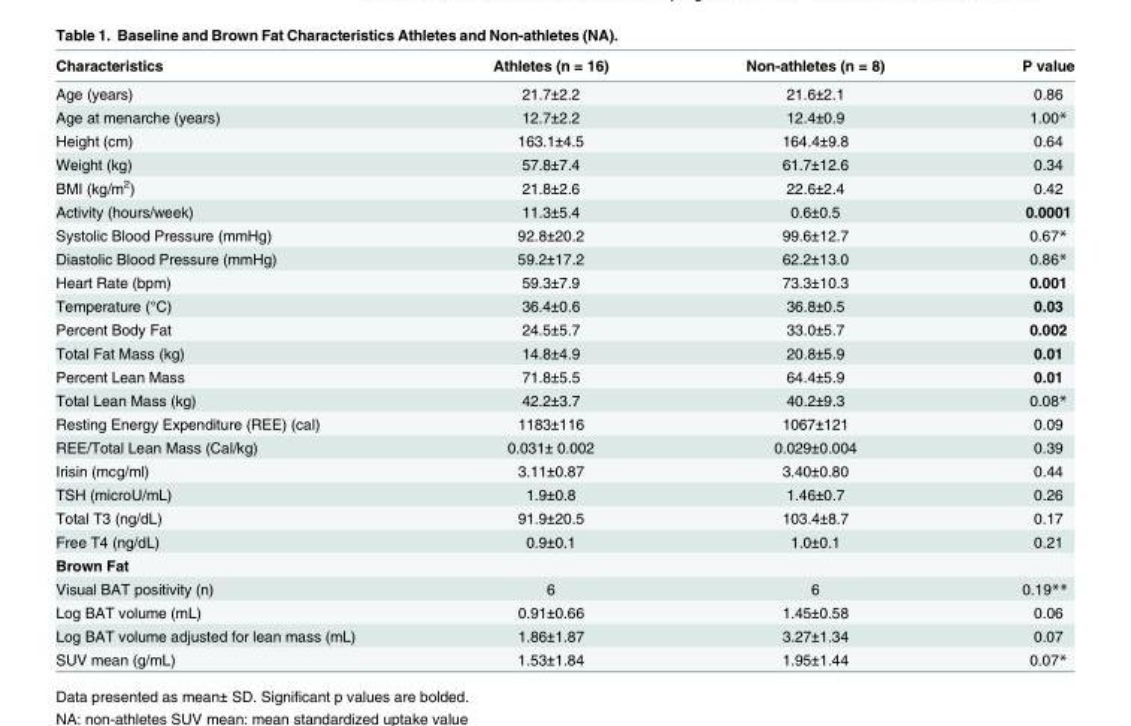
<table><thead><tr><td>Characteristics</td><td>Athletes (n = 16)</td><td>Non-athletes (n = 8)</td><td>P value</td></tr></thead><tbody><tr><td>Age (years)</td><td>21.7±2.2</td><td>21.6±2.1</td><td>0.86</td></tr><tr><td>Age at menarche (years)</td><td>12.7±2.2</td><td>12.4±0.9</td><td>1.00*</td></tr><tr><td>Height (cm)</td><td>163.1±4.5</td><td>164.4±9.8</td><td>0.64</td></tr><tr><td>Weight (kg)</td><td>57.8±7.4</td><td>61.7±12.6</td><td>0.34</td></tr><tr><td>BMI (kg/m<sup>2</sup>)</td><td>21.8±2.6</td><td>22.6±2.4</td><td>0.42</td></tr><tr><td>Activity (hours/week)</td><td>11.3±5.4</td><td>0.6±0.5</td><td>0.0001</td></tr><tr><td>Systolic Blood Pressure (mmHg)</td><td>92.8±20.2</td><td>99.6±12.7</td><td>0.67*</td></tr><tr><td>Diastolic Blood Pressure (mmHg)</td><td>59.2±17.2</td><td>62.2±13.0</td><td>0.86*</td></tr><tr><td>Heart Rate (bpm)</td><td>59.3±7.9</td><td>73.3±10.3</td><td>0.001</td></tr><tr><td>Temperature (°C)</td><td>36.4±0.6</td><td>36.8±0.5</td><td>0.03</td></tr><tr><td>Percent Body Fat</td><td>24.5±5.7</td><td>33.0±5.7</td><td>0.002</td></tr><tr><td>Total Fat Mass (kg)</td><td>14.8±4.9</td><td>20.8±5.9</td><td>0.01</td></tr><tr><td>Percent Lean Mass</td><td>71.8±5.5</td><td>64.4±5.9</td><td>0.01</td></tr><tr><td>Total Lean Mass (kg)</td><td>42.2±3.7</td><td>40.2±9.3</td><td>0.08*</td></tr><tr><td>Resting Energy Expenditure (REE) (cal)</td><td>1183±116</td><td>1067±121</td><td>0.09</td></tr><tr><td>REE/Total Lean Mass (Cal/kg)</td><td>0.031± 0.002</td><td>0.029±0.004</td><td>0.39</td></tr><tr><td>Irisin (mcg/ml)</td><td>3.11±0.87</td><td>3.40±0.80</td><td>0.44</td></tr><tr><td>TSH (microU/mL)</td><td>1.9±0.8</td><td>1.46±0.7</td><td>0.26</td></tr><tr><td>Total T3 (ng/dL)</td><td>91.9±20.5</td><td>103.4±8.7</td><td>0.17</td></tr><tr><td>Free T4 (ng/dL)</td><td>0.9±0.1</td><td>1.0±0.1</td><td>0.21</td></tr><tr><td colspan="4">Brown Fat</td></tr><tr><td>Visual BAT positivity (n)</td><td>6</td><td>6</td><td>0.19**</td></tr><tr><td>Log BAT volume (mL)</td><td>0.91±0.66</td><td>1.45±0.58</td><td>0.06</td></tr><tr><td>Log BAT volume adjusted for lean mass (mL)</td><td>1.86±1.87</td><td>3.27±1.34</td><td>0.07</td></tr><tr><td>SUV mean (g/mL)</td><td>1.53±1.84</td><td>1.95±1.44</td><td>0.07*</td></tr></tbody></table>